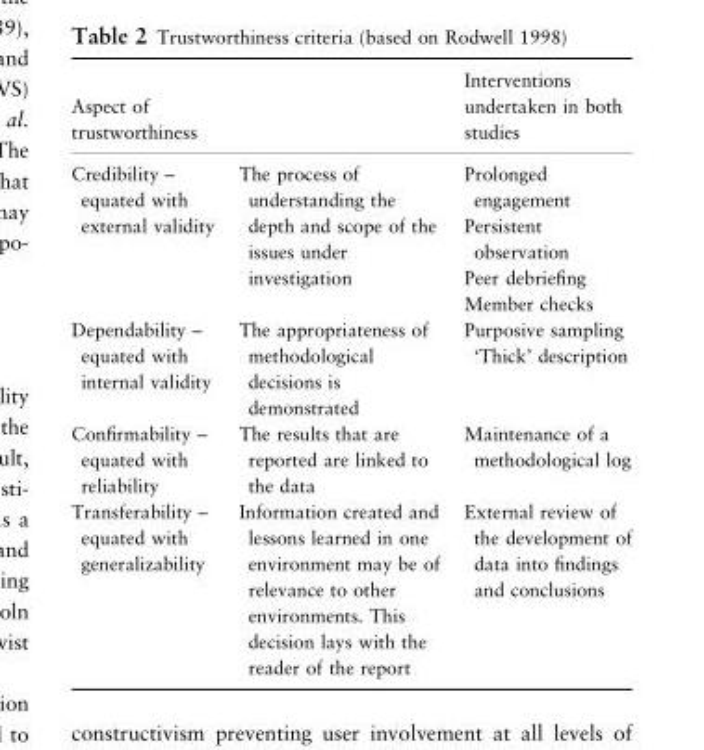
<table><thead><tr><td colspan="2">Aspect of trustworthiness</td><td rowspan="2">Interventions undertaken in both studies Prolonged engagement Persistent observation Peer debriefing Member checks</td></tr><tr><td>Credibility – equated with external validity</td><td>The process of understanding the depth and scope of the issues under investigation</td></tr></thead><tbody><tr><td>Dependability – equated with internal validity</td><td>The appropriateness of methodological decisions is demonstrated</td><td>Purposive sampling ‘Thick’ description</td></tr><tr><td>Confirmability – equated with reliability</td><td>The results that are reported are linked to the data</td><td>Maintenance of a methodological log</td></tr><tr><td>Transferability – equated with generalizability</td><td>Information created and lessons learned in one environment may be of relevance to other environments. This decision lays with the reader of the report</td><td>External review of the development of data into findings and conclusions</td></tr></tbody></table>